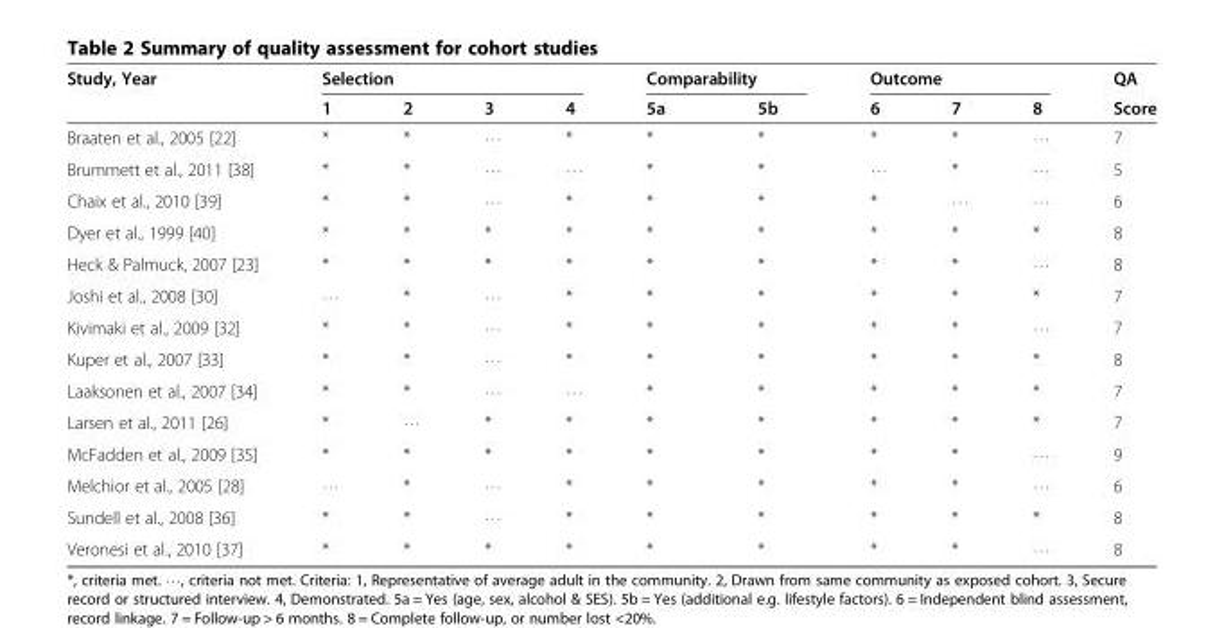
<table><thead><tr><td rowspan="2">Study, Year</td><td colspan="4">Selection</td><td colspan="2">Comparability</td><td colspan="3">Outcome</td><td rowspan="2">QA Score</td></tr><tr><td>1</td><td>2</td><td>3</td><td>4</td><td>5a</td><td>5b</td><td>6</td><td>7</td><td>8</td></tr></thead><tbody><tr><td>Braaten et al., 2005 [22]</td><td>*</td><td>*</td><td>⋅⋅⋅</td><td>*</td><td>*</td><td>*</td><td>*</td><td>*</td><td>⋅⋅⋅</td><td>7</td></tr><tr><td>Brummett et al., 2011 [38]</td><td>*</td><td>*</td><td>⋅⋅⋅</td><td>⋅⋅⋅</td><td>*</td><td>*</td><td>⋅⋅⋅</td><td>*</td><td>⋅⋅⋅</td><td>5</td></tr><tr><td>Chaix et al., 2010 [39]</td><td>*</td><td>*</td><td>⋅⋅⋅</td><td>*</td><td>*</td><td>*</td><td>*</td><td>⋅⋅⋅</td><td>⋅⋅⋅</td><td>6</td></tr><tr><td>Dyer et al., 1999 [40]</td><td>*</td><td>*</td><td>*</td><td>*</td><td>*</td><td>*</td><td>*</td><td>*</td><td>*</td><td>8</td></tr><tr><td>Heck &amp; Palmuck, 2007 [23]</td><td>*</td><td>*</td><td>*</td><td>*</td><td>*</td><td>*</td><td>*</td><td>*</td><td>⋅⋅⋅</td><td>8</td></tr><tr><td>Joshi et al., 2008 [30]</td><td>⋅⋅⋅</td><td>*</td><td>⋅⋅⋅</td><td>*</td><td>*</td><td>*</td><td>*</td><td>*</td><td>*</td><td>7</td></tr><tr><td>Kivimaki et al., 2009 [32]</td><td>*</td><td>*</td><td>⋅⋅⋅</td><td>*</td><td>*</td><td>*</td><td>*</td><td>*</td><td>⋅⋅⋅</td><td>7</td></tr><tr><td>Kuper et al., 2007 [33]</td><td>*</td><td>*</td><td>⋅⋅⋅</td><td>*</td><td>*</td><td>*</td><td>*</td><td>*</td><td>*</td><td>8</td></tr><tr><td>Laaksonen et al., 2007 [34]</td><td>*</td><td>*</td><td>⋅⋅⋅</td><td>⋅⋅⋅</td><td>*</td><td>*</td><td>*</td><td>*</td><td>*</td><td>7</td></tr><tr><td>Larsen et al., 2011 [26]</td><td>*</td><td>⋅⋅⋅</td><td>*</td><td>*</td><td>*</td><td>*</td><td>*</td><td>*</td><td>*</td><td>7</td></tr><tr><td>McFadden et al., 2009 [35]</td><td>*</td><td>*</td><td>*</td><td>*</td><td>*</td><td>*</td><td>*</td><td>*</td><td>⋅⋅⋅</td><td>9</td></tr><tr><td>Melchior et al., 2005 [28]</td><td>⋅⋅⋅</td><td>*</td><td>⋅⋅⋅</td><td>*</td><td>*</td><td>*</td><td>*</td><td>*</td><td>⋅⋅⋅</td><td>6</td></tr><tr><td>Sundell et al., 2008 [36]</td><td>*</td><td>*</td><td>⋅⋅⋅</td><td>*</td><td>*</td><td>*</td><td>*</td><td>*</td><td>*</td><td>8</td></tr><tr><td>Veronesi et al., 2010 [37]</td><td>*</td><td>*</td><td>*</td><td>*</td><td>*</td><td>*</td><td>*</td><td>*</td><td>⋅⋅⋅</td><td>8</td></tr></tbody></table>